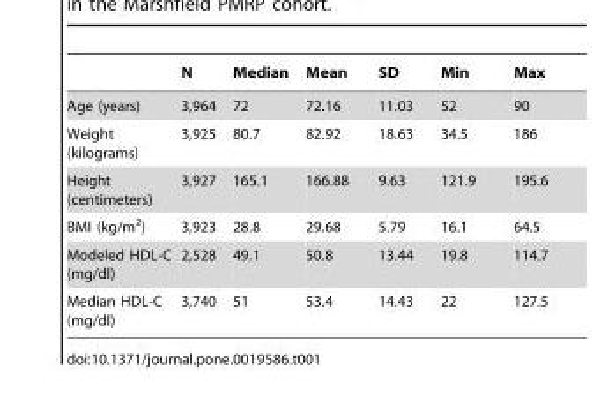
<table><thead><tr><td></td><td>N</td><td>Median</td><td>Mean</td><td>SD</td><td>Min</td><td>Max</td></tr></thead><tbody><tr><td>Age (years)</td><td>3,964</td><td>72</td><td>72.16</td><td>11.03</td><td>52</td><td>90</td></tr><tr><td>Weight (kilograms)</td><td>3,925</td><td>80.7</td><td>82.92</td><td>18.63</td><td>34.5</td><td>186</td></tr><tr><td>Height (centimeters)</td><td>3,927</td><td>165.1</td><td>166.88</td><td>9.63</td><td>121.9</td><td>195.6</td></tr><tr><td>BMI (kg/m<sup>2</sup>)</td><td>3,923</td><td>28.8</td><td>29.68</td><td>5.79</td><td>16.1</td><td>64.5</td></tr><tr><td>Modeled HDL-C (mg/dl)</td><td>2,528</td><td>49.1</td><td>50.8</td><td>13.44</td><td>19.8</td><td>114.7</td></tr><tr><td>Median HDL-C (mg/dl)</td><td>3,740</td><td>51</td><td>53.4</td><td>14.43</td><td>22</td><td>127.5</td></tr></tbody></table>